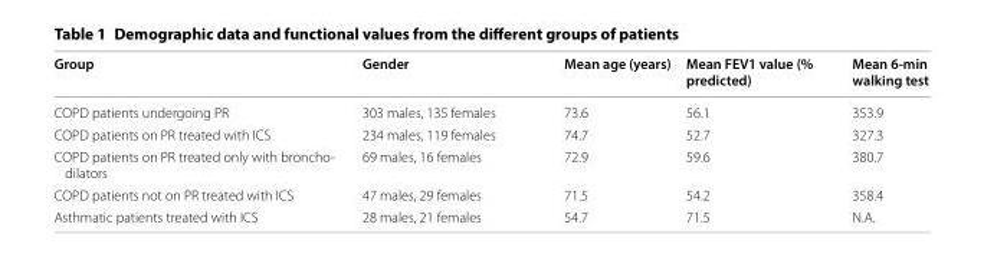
<table><thead><tr><td>Group</td><td>Gender</td><td>Mean age (years)</td><td>Mean FEV1 value (% predicted)</td><td>Mean 6-min walking test</td></tr></thead><tbody><tr><td>COPD patients undergoing PR</td><td>303 males, 135 females</td><td>73.6</td><td>56.1</td><td>353.9</td></tr><tr><td>COPD patients on PR treated with ICS</td><td>234 males, 119 females</td><td>74.7</td><td>52.7</td><td>327.3</td></tr><tr><td>COPD patients on PR treated only with broncho‑ dilators</td><td>69 males, 16 females</td><td>72.9</td><td>59.6</td><td>380.7</td></tr><tr><td>COPD patients not on PR treated with ICS</td><td>47 males, 29 females</td><td>71.5</td><td>54.2</td><td>358.4</td></tr><tr><td>Asthmatic patients treated with ICS</td><td>28 males, 21 females</td><td>54.7</td><td>71.5</td><td>N.A.</td></tr></tbody></table>